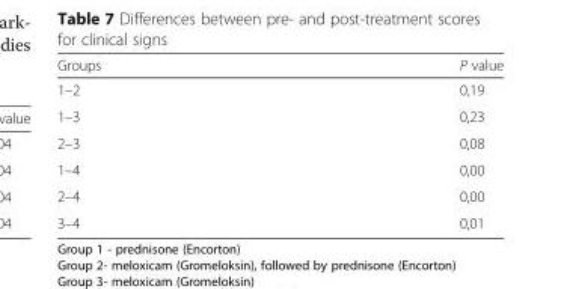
<table><thead><tr><td>Groups</td><td>P value</td></tr></thead><tbody><tr><td>1–2</td><td>0,19</td></tr><tr><td>1–3</td><td>0,23</td></tr><tr><td>2–3</td><td>0,08</td></tr><tr><td>1–4</td><td>0,00</td></tr><tr><td>2–4</td><td>0,00</td></tr><tr><td>3–4</td><td>0,01</td></tr></tbody></table>